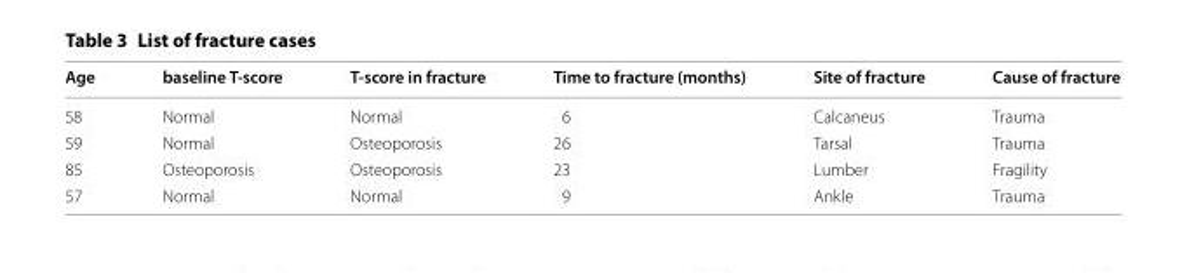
<table><thead><tr><td>Age</td><td>baseline T-score</td><td>T-score in fracture</td><td>Time to fracture (months)</td><td>Site of fracture</td><td>Cause of fracture</td></tr></thead><tbody><tr><td>58</td><td>Normal</td><td>Normal</td><td>6</td><td>Calcaneus</td><td>Trauma</td></tr><tr><td>59</td><td>Normal</td><td>Osteoporosis</td><td>26</td><td>Tarsal</td><td>Trauma</td></tr><tr><td>85</td><td>Osteoporosis</td><td>Osteoporosis</td><td>23</td><td>Lumber</td><td>Fragility</td></tr><tr><td>57</td><td>Normal</td><td>Normal</td><td>9</td><td>Ankle</td><td>Trauma</td></tr></tbody></table>